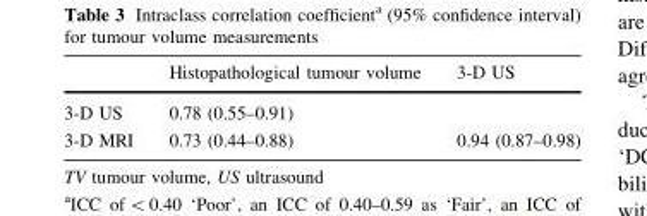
<table><thead><tr><td></td><td>Histopathological tumour volume</td><td>3-D US</td></tr></thead><tbody><tr><td>3-D US</td><td>0.78 (0.55–0.91)</td><td></td></tr><tr><td>3-D MRI</td><td>0.73 (0.44–0.88)</td><td>0.94 (0.87–0.98)</td></tr></tbody></table>